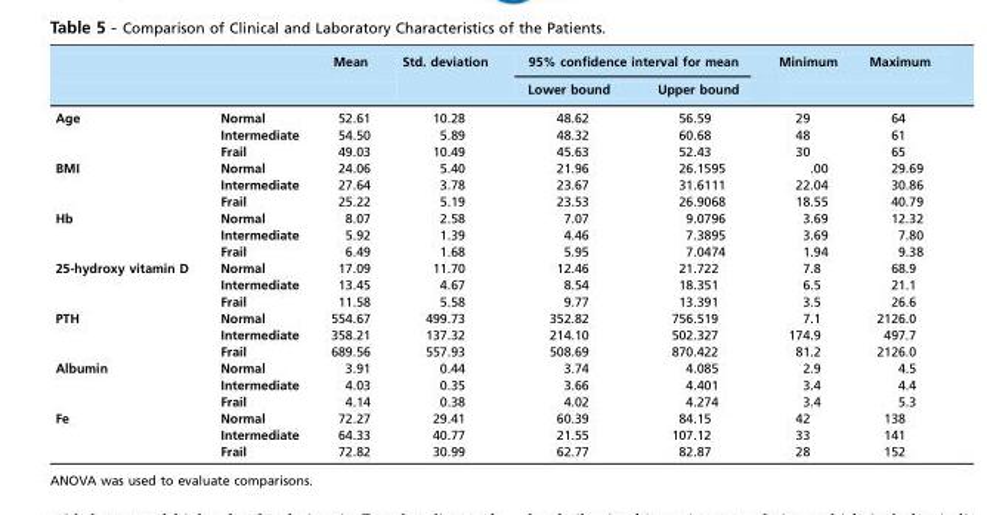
<table><thead><tr><td rowspan="2"></td><td rowspan="2"></td><td rowspan="2">Mean</td><td rowspan="2">Std. deviation</td><td colspan="2">95% confidence interval for mean</td><td rowspan="2">Minimum</td><td rowspan="2">Maximum</td></tr><tr><td>Lower bound</td><td>Upper bound</td></tr></thead><tbody><tr><td rowspan="3">Age</td><td>Normal</td><td>52.61</td><td>10.28</td><td>48.62</td><td>56.59</td><td>29</td><td>64</td></tr><tr><td>Intermediate</td><td>54.50</td><td>5.89</td><td>48.32</td><td>60.68</td><td>48</td><td>61</td></tr><tr><td>Frail</td><td>49.03</td><td>10.49</td><td>45.63</td><td>52.43</td><td>30</td><td>65</td></tr><tr><td rowspan="3">BMI</td><td>Normal</td><td>24.06</td><td>5.40</td><td>21.96</td><td>26.1595</td><td>.00</td><td>29.69</td></tr><tr><td>Intermediate</td><td>27.64</td><td>3.78</td><td>23.67</td><td>31.6111</td><td>22.04</td><td>30.86</td></tr><tr><td>Frail</td><td>25.22</td><td>5.19</td><td>23.53</td><td>26.9068</td><td>18.55</td><td>40.79</td></tr><tr><td rowspan="3">Hb</td><td>Normal</td><td>8.07</td><td>2.58</td><td>7.07</td><td>9.0796</td><td>3.69</td><td>12.32</td></tr><tr><td>Intermediate</td><td>5.92</td><td>1.39</td><td>4.46</td><td>7.3895</td><td>3.69</td><td>7.80</td></tr><tr><td>Frail</td><td>6.49</td><td>1.68</td><td>5.95</td><td>7.0474</td><td>1.94</td><td>9.38</td></tr><tr><td rowspan="3">25-hydroxy vitamin D</td><td>Normal</td><td>17.09</td><td>11.70</td><td>12.46</td><td>21.722</td><td>7.8</td><td>68.9</td></tr><tr><td>Intermediate</td><td>13.45</td><td>4.67</td><td>8.54</td><td>18.351</td><td>6.5</td><td>21.1</td></tr><tr><td>Frail</td><td>11.58</td><td>5.58</td><td>9.77</td><td>13.391</td><td>3.5</td><td>26.6</td></tr><tr><td rowspan="3">PTH</td><td>Normal</td><td>554.67</td><td>499.73</td><td>352.82</td><td>756.519</td><td>7.1</td><td>2126.0</td></tr><tr><td>Intermediate</td><td>358.21</td><td>137.32</td><td>214.10</td><td>502.327</td><td>174.9</td><td>497.7</td></tr><tr><td>Frail</td><td>689.56</td><td>557.93</td><td>508.69</td><td>870.422</td><td>81.2</td><td>2126.0</td></tr><tr><td rowspan="3">Albumin</td><td>Normal</td><td>3.91</td><td>0.44</td><td>3.74</td><td>4.085</td><td>2.9</td><td>4.5</td></tr><tr><td>Intermediate</td><td>4.03</td><td>0.35</td><td>3.66</td><td>4.401</td><td>3.4</td><td>4.4</td></tr><tr><td>Frail</td><td>4.14</td><td>0.38</td><td>4.02</td><td>4.274</td><td>3.4</td><td>5.3</td></tr><tr><td rowspan="3">Fe</td><td>Normal</td><td>72.27</td><td>29.41</td><td>60.39</td><td>84.15</td><td>42</td><td>138</td></tr><tr><td>Intermediate</td><td>64.33</td><td>40.77</td><td>21.55</td><td>107.12</td><td>33</td><td>141</td></tr><tr><td>Frail</td><td>72.82</td><td>30.99</td><td>62.77</td><td>82.87</td><td>28</td><td>152</td></tr></tbody></table>